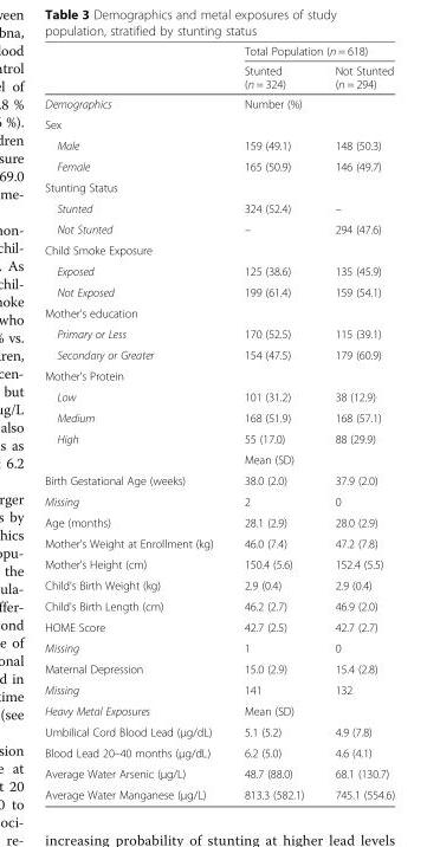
<table><thead><tr><td rowspan="2"></td><td colspan="2">Total Population (n = 618)</td></tr><tr><td>Stunted (n = 324)</td><td>Not Stunted (n = 294)</td></tr></thead><tbody><tr><td>Demographics</td><td colspan="2">Number (%)</td></tr><tr><td colspan="3">Sex</td></tr><tr><td>Male</td><td>159 (49.1)</td><td>148 (50.3)</td></tr><tr><td>Female</td><td>165 (50.9)</td><td>146 (49.7)</td></tr><tr><td colspan="3">Stunting Status</td></tr><tr><td>Stunted</td><td>324 (52.4)</td><td>–</td></tr><tr><td>Not Stunted</td><td>–</td><td>294 (47.6)</td></tr><tr><td colspan="3">Child Smoke Exposure</td></tr><tr><td>Exposed</td><td>125 (38.6)</td><td>135 (45.9)</td></tr><tr><td>Not Exposed</td><td>199 (61.4)</td><td>159 (54.1)</td></tr><tr><td colspan="3">Mother&#x27;s education</td></tr><tr><td>Primary or Less</td><td>170 (52.5)</td><td>115 (39.1)</td></tr><tr><td>Secondary or Greater</td><td>154 (47.5)</td><td>179 (60.9)</td></tr><tr><td colspan="3">Mother&#x27;s Protein</td></tr><tr><td>Low</td><td>101 (31.2)</td><td>38 (12.9)</td></tr><tr><td>Medium</td><td>168 (51.9)</td><td>168 (57.1)</td></tr><tr><td rowspan="2">High</td><td>55 (17.0)</td><td>88 (29.9)</td></tr><tr><td colspan="2">Mean (SD)</td></tr><tr><td>Birth Gestational Age (weeks)</td><td>38.0 (2.0)</td><td>37.9 (2.0)</td></tr><tr><td>Missing</td><td>2</td><td>0</td></tr><tr><td>Age (months)</td><td>28.1 (2.9)</td><td>28.0 (2.9)</td></tr><tr><td>Mother&#x27;s Weight at Enrollment (kg)</td><td>46.0 (7.4)</td><td>47.2 (7.8)</td></tr><tr><td>Mother&#x27;s Height (cm)</td><td>150.4 (5.6)</td><td>152.4 (5.5)</td></tr><tr><td>Child&#x27;s Birth Weight (kg)</td><td>2.9 (0.4)</td><td>2.9 (0.4)</td></tr><tr><td>Child&#x27;s Birth Length (cm)</td><td>46.2 (2.7)</td><td>46.9 (2.0)</td></tr><tr><td>HOME Score</td><td>42.7 (2.5)</td><td>42.7 (2.7)</td></tr><tr><td>Missing</td><td>1</td><td>0</td></tr><tr><td>Maternal Depression</td><td>15.0 (2.9)</td><td>15.4 (2.8)</td></tr><tr><td>Missing</td><td>141</td><td>132</td></tr><tr><td>Heavy Metal Exposures</td><td colspan="2">Mean (SD)</td></tr><tr><td>Umbilical Cord Blood Lead (μg/dL)</td><td>5.1 (5.2)</td><td>4.9 (7.8)</td></tr><tr><td>Blood Lead 20–40 months (μg/dL)</td><td>6.2 (5.0)</td><td>4.6 (4.1)</td></tr><tr><td>Average Water Arsenic (μg/L)</td><td>48.7 (88.0)</td><td>68.1 (130.7)</td></tr><tr><td>Average Water Manganese (μg/L)</td><td>813.3 (582.1)</td><td>745.1 (554.6)</td></tr></tbody></table>